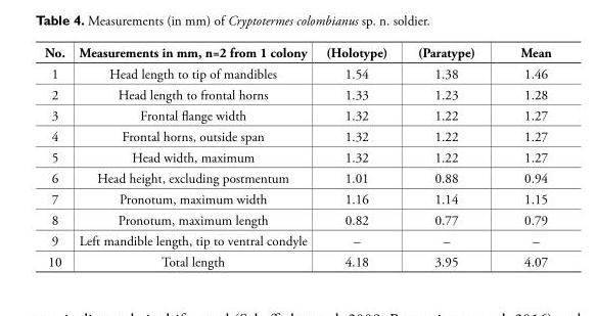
<table><thead><tr><td>No.</td><td>Measurements in mm, n=2 from 1 colony</td><td>(Holotype)</td><td>(Paratype)</td><td>Mean</td></tr></thead><tbody><tr><td>1</td><td>Head length to tip of mandibles</td><td>1.54</td><td>1.38</td><td>1.46</td></tr><tr><td>2</td><td>Head length to frontal horns</td><td>1.33</td><td>1.23</td><td>1.28</td></tr><tr><td>3</td><td>Frontal flange width</td><td>1.32</td><td>1.22</td><td>1.27</td></tr><tr><td>4</td><td>Frontal horns, outside span</td><td>1.32</td><td>1.22</td><td>1.27</td></tr><tr><td>5</td><td>Head width, maximum</td><td>1.32</td><td>1.22</td><td>1.27</td></tr><tr><td>6</td><td>Head height, excluding postmentum</td><td>1.01</td><td>0.88</td><td>0.94</td></tr><tr><td>7</td><td>Pronotum, maximum width</td><td>1.16</td><td>1.14</td><td>1.15</td></tr><tr><td>8</td><td>Pronotum, maximum length</td><td>0.82</td><td>0.77</td><td>0.79</td></tr><tr><td>9</td><td>Left mandible length, tip to ventral condyle</td><td>–</td><td>–</td><td>–</td></tr><tr><td>10</td><td>Total length</td><td>4.18</td><td>3.95</td><td>4.07</td></tr></tbody></table>